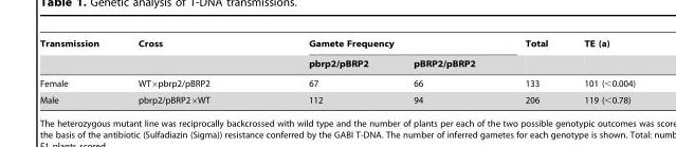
<table><thead><tr><td rowspan="2">Transmission</td><td rowspan="2">Cross</td><td colspan="2">Gamete Frequency</td><td rowspan="2">Total</td><td rowspan="2">TE (a)</td></tr><tr><td>pbrp2/pBRP2</td><td>pBRP2/pBRP2</td></tr></thead><tbody><tr><td>Female</td><td>WT×pbrp2/pBRP2</td><td>67</td><td>66</td><td>133</td><td>101 (&lt;0.004)</td></tr><tr><td>Male</td><td>pbrp2/pBRP2×WT</td><td>112</td><td>94</td><td>206</td><td>119 (&lt;0.78)</td></tr></tbody></table>